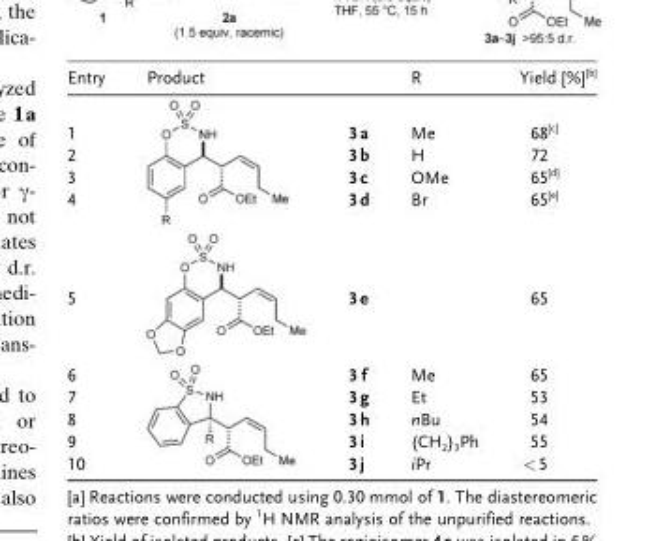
<table><thead><tr><td>Entry</td><td>Product</td><td></td><td>R</td><td>Yield [%]<sup>[b]</sup></td></tr></thead><tbody><tr><td>1 2 3 4</td><td></td><td>3a 3b 3c 3d</td><td>Me H OMe Br</td><td>68<sup>[c]</sup> 72 65<sup>[d]</sup> 65<sup>[e]</sup></td></tr><tr><td>5</td><td></td><td>3e</td><td></td><td>65</td></tr><tr><td>6 7 8 9 10</td><td></td><td>3 f 3g 3h 3i 3j</td><td>Me Et nBu (CH<sub>2</sub>)<sub>3</sub>Ph iPr</td><td>65 53 54 55 &lt;5</td></tr></tbody></table>